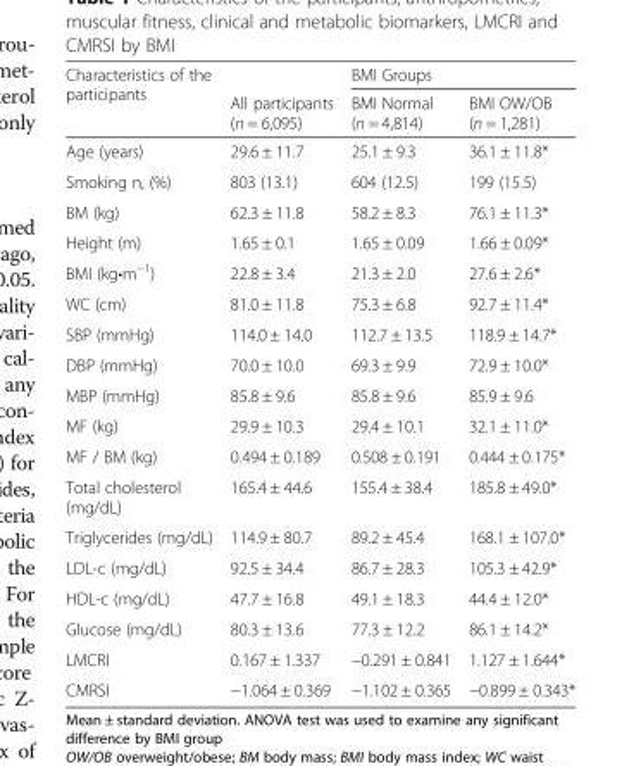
<table><thead><tr><td rowspan="2">Characteristics of the participants</td><td rowspan="2">All participants (n = 6,095)</td><td colspan="2">BMI Groups</td></tr><tr><td>BMI Normal (n = 4,814)</td><td>BMI OW/OB (n = 1,281)</td></tr></thead><tbody><tr><td>Age (years)</td><td>29.6 ± 11.7</td><td>25.1 ± 9.3</td><td>36.1 ± 11.8*</td></tr><tr><td>Smoking n, (%)</td><td>803 (13.1)</td><td>604 (12.5)</td><td>199 (15.5)</td></tr><tr><td>BM (kg)</td><td>62.3 ± 11.8</td><td>58.2 ± 8.3</td><td>76.1 ± 11.3*</td></tr><tr><td>Height (m)</td><td>1.65 ± 0.1</td><td>1.65 ± 0.09</td><td>1.66 ± 0.09*</td></tr><tr><td>BMI (kg•m<sup>−1</sup>)</td><td>22.8 ± 3.4</td><td>21.3 ± 2.0</td><td>27.6 ± 2.6*</td></tr><tr><td>WC (cm)</td><td>81.0 ± 11.8</td><td>75.3 ± 6.8</td><td>92.7 ± 11.4*</td></tr><tr><td>SBP (mmHg)</td><td>114.0 ± 14.0</td><td>112.7 ± 13.5</td><td>118.9 ± 14.7*</td></tr><tr><td>DBP (mmHg)</td><td>70.0 ± 10.0</td><td>69.3 ± 9.9</td><td>72.9 ± 10.0*</td></tr><tr><td>MBP (mmHg)</td><td>85.8 ± 9.6</td><td>85.8 ± 9.6</td><td>85.9 ± 9.6</td></tr><tr><td>MF (kg)</td><td>29.9 ± 10.3</td><td>29.4 ± 10.1</td><td>32.1 ± 11.0*</td></tr><tr><td>MF / BM (kg)</td><td>0.494 ± 0.189</td><td>0.508 ± 0.191</td><td>0.444 ± 0.175*</td></tr><tr><td>Total cholesterol (mg/dL)</td><td>165.4 ± 44.6</td><td>155.4 ± 38.4</td><td>185.8 ± 49.0*</td></tr><tr><td>Triglycerides (mg/dL)</td><td>114.9 ± 80.7</td><td>89.2 ± 45.4</td><td>168.1 ± 107.0*</td></tr><tr><td>LDL-c (mg/dL)</td><td>92.5 ± 34.4</td><td>86.7 ± 28.3</td><td>105.3 ± 42.9*</td></tr><tr><td>HDL-c (mg/dL)</td><td>47.7 ± 16.8</td><td>49.1 ± 18.3</td><td>44.4 ± 12.0*</td></tr><tr><td>Glucose (mg/dL)</td><td>80.3 ± 13.6</td><td>77.3 ± 12.2</td><td>86.1 ± 14.2*</td></tr><tr><td>LMCRI</td><td>0.167 ± 1.337</td><td>−0.291 ± 0.841</td><td>1.127 ± 1.644*</td></tr><tr><td>CMRSI</td><td>−1.064 ± 0.369</td><td>−1.102 ± 0.365</td><td>−0.899 ± 0.343*</td></tr></tbody></table>